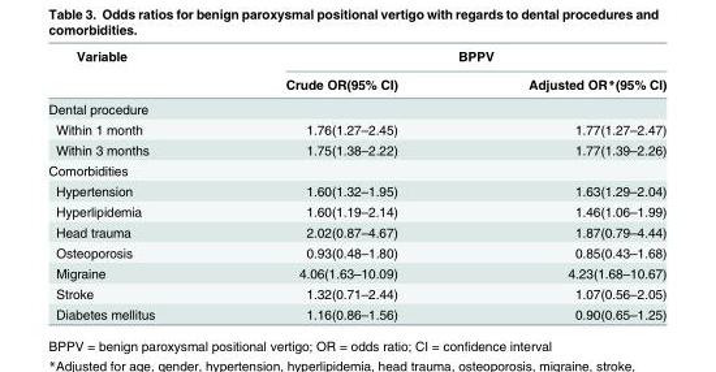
<table><thead><tr><td rowspan="2">Variable</td><td colspan="2">BPPV</td></tr><tr><td>Crude OR(95% CI)</td><td>Adjusted OR*(95% CI)</td></tr></thead><tbody><tr><td colspan="3">Dental procedure</td></tr><tr><td>Within 1 month</td><td>1.76(1.27–2.45)</td><td>1.77(1.27–2.47)</td></tr><tr><td>Within 3 months</td><td>1.75(1.38–2.22)</td><td>1.77(1.39–2.26)</td></tr><tr><td colspan="3">Comorbidities</td></tr><tr><td>Hypertension</td><td>1.60(1.32–1.95)</td><td>1.63(1.29–2.04)</td></tr><tr><td>Hyperlipidemia</td><td>1.60(1.19–2.14)</td><td>1.46(1.06–1.99)</td></tr><tr><td>Head trauma</td><td>2.02(0.87–4.67)</td><td>1.87(0.79–4.44)</td></tr><tr><td>Osteoporosis</td><td>0.93(0.48–1.80)</td><td>0.85(0.43–1.68)</td></tr><tr><td>Migraine</td><td>4.06(1.63–10.09)</td><td>4.23(1.68–10.67)</td></tr><tr><td>Stroke</td><td>1.32(0.71–2.44)</td><td>1.07(0.56–2.05)</td></tr><tr><td>Diabetes mellitus</td><td>1.16(0.86–1.56)</td><td>0.90(0.65–1.25)</td></tr></tbody></table>